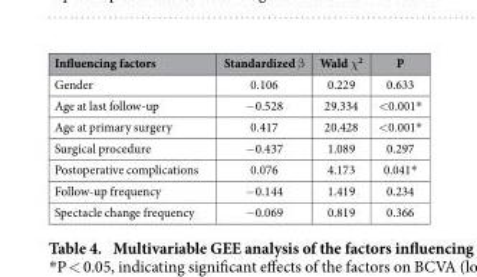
<table><thead><tr><td>Influencing factors</td><td>Standardized β</td><td>Wald χ<sup>2</sup></td><td>P</td></tr></thead><tbody><tr><td>Gender</td><td>0.106</td><td>0.229</td><td>0.633</td></tr><tr><td>Age at last follow-up</td><td>−0.528</td><td>29.334</td><td>&lt;0.001*</td></tr><tr><td>Age at primary surgery</td><td>0.417</td><td>20.428</td><td>&lt;0.001*</td></tr><tr><td>Surgical procedure</td><td>−0.437</td><td>1.089</td><td>0.297</td></tr><tr><td>Postoperative complications</td><td>0.076</td><td>4.173</td><td>0.041*</td></tr><tr><td>Follow-up frequency</td><td>−0.144</td><td>1.419</td><td>0.234</td></tr><tr><td>Spectacle change frequency</td><td>−0.069</td><td>0.819</td><td>0.366</td></tr></tbody></table>